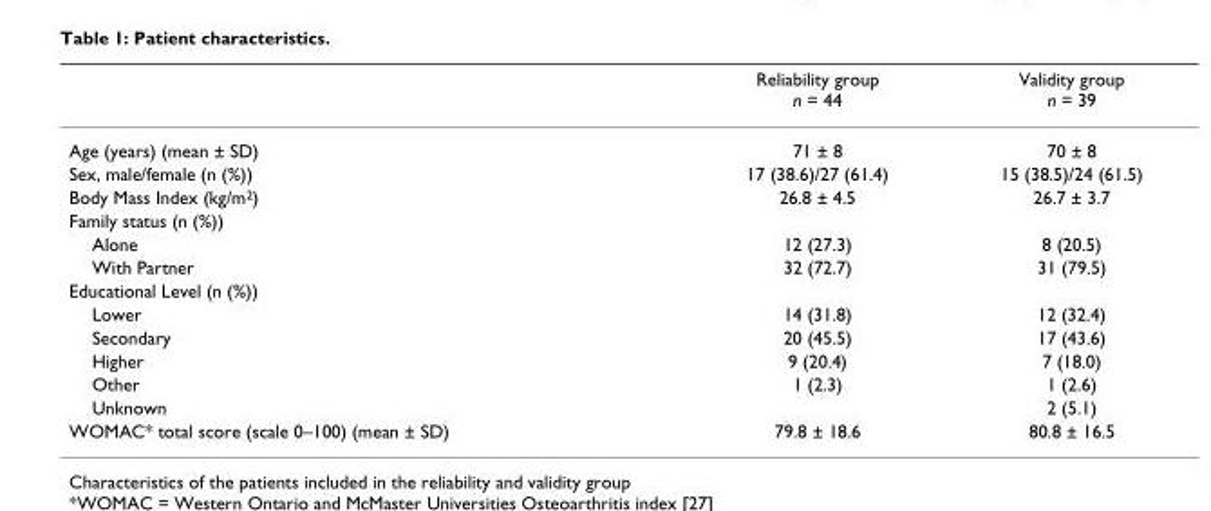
<table><thead><tr><td></td><td>Reliability group n = 44</td><td>Validity group n = 39</td></tr></thead><tbody><tr><td>Age (years) (mean ± SD)</td><td>71 ± 8</td><td>70 ± 8</td></tr><tr><td>Sex, male/female (n (%))</td><td>17 (38.6)/27 (61.4)</td><td>15 (38.5)/24 (61.5)</td></tr><tr><td>Body Mass Index (kg/m<sup>2</sup>)</td><td>26.8 ± 4.5</td><td>26.7 ± 3.7</td></tr><tr><td colspan="3">Family status (n (%))</td></tr><tr><td>Alone</td><td>12 (27.3)</td><td>8 (20.5)</td></tr><tr><td>With Partner</td><td>32 (72.7)</td><td>31 (79.5)</td></tr><tr><td colspan="3">Educational Level (n (%))</td></tr><tr><td>Lower</td><td>14 (31.8)</td><td>12 (32.4)</td></tr><tr><td>Secondary</td><td>20 (45.5)</td><td>17 (43.6)</td></tr><tr><td>Higher</td><td>9 (20.4)</td><td>7 (18.0)</td></tr><tr><td>Other</td><td>1 (2.3)</td><td>1 (2.6)</td></tr><tr><td>Unknown</td><td></td><td>2 (5.1)</td></tr><tr><td>WOMAC* total score (scale 0–100) (mean ± SD)</td><td>79.8 ± 18.6</td><td>80.8 ± 16.5</td></tr></tbody></table>